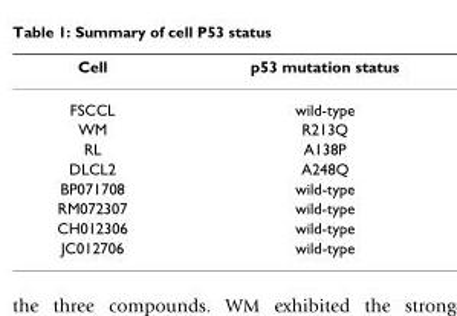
<table><thead><tr><td>Cell</td><td>p53 mutation status</td></tr></thead><tbody><tr><td>FSCCL</td><td>wild-type</td></tr><tr><td>WM</td><td>R213Q</td></tr><tr><td>RL</td><td>A138P</td></tr><tr><td>DLCL2</td><td>A248Q</td></tr><tr><td>BP071708</td><td>wild-type</td></tr><tr><td>RM072307</td><td>wild-type</td></tr><tr><td>CH012306</td><td>wild-type</td></tr><tr><td>JC012706</td><td>wild-type</td></tr></tbody></table>